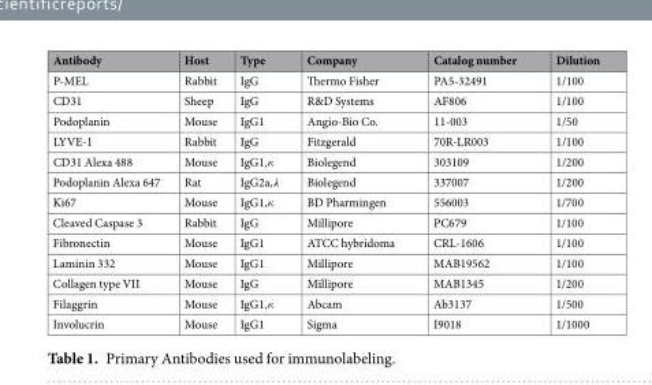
<table><thead><tr><td>Antibody</td><td>Host</td><td>Type</td><td>Company</td><td>Catalog number</td><td>Dilution</td></tr></thead><tbody><tr><td>P-MEL</td><td>Rabbit</td><td>IgG</td><td>Thermo Fisher</td><td>PA5-32491</td><td>1/100</td></tr><tr><td>CD31</td><td>Sheep</td><td>IgG</td><td>R&amp;D Systems</td><td>AF806</td><td>1/100</td></tr><tr><td>Podoplanin</td><td>Mouse</td><td>IgG1</td><td>Angio-Bio Co.</td><td>11-003</td><td>1/50</td></tr><tr><td>LYVE-1</td><td>Rabbit</td><td>IgG</td><td>Fitzgerald</td><td>70R-LR003</td><td>1/100</td></tr><tr><td>CD31 Alexa 488</td><td>Mouse</td><td>IgG1,κ</td><td>Biolegend</td><td>303109</td><td>1/200</td></tr><tr><td>Podoplanin Alexa 647</td><td>Rat</td><td>IgG2a,𝜆</td><td>Biolegend</td><td>337007</td><td>1/200</td></tr><tr><td>Ki67</td><td>Mouse</td><td>IgG1,κ</td><td>BD Pharmingen</td><td>556003</td><td>1/700</td></tr><tr><td>Cleaved Caspase 3</td><td>Rabbit</td><td>IgG</td><td>Millipore</td><td>PC679</td><td>1/100</td></tr><tr><td>Fibronectin</td><td>Mouse</td><td>IgG1</td><td>ATCC hybridoma</td><td>CRL-1606</td><td>1/100</td></tr><tr><td>Laminin 332</td><td>Mouse</td><td>IgG1</td><td>Millipore</td><td>MAB19562</td><td>1/100</td></tr><tr><td>Collagen type VII</td><td>Mouse</td><td>IgG</td><td>Millipore</td><td>MAB1345</td><td>1/200</td></tr><tr><td>Filaggrin</td><td>Mouse</td><td>IgG1,κ</td><td>Abcam</td><td>Ab3137</td><td>1/500</td></tr><tr><td>Involucrin</td><td>Mouse</td><td>IgG1</td><td>Sigma</td><td>I9018</td><td>1/1000</td></tr></tbody></table>